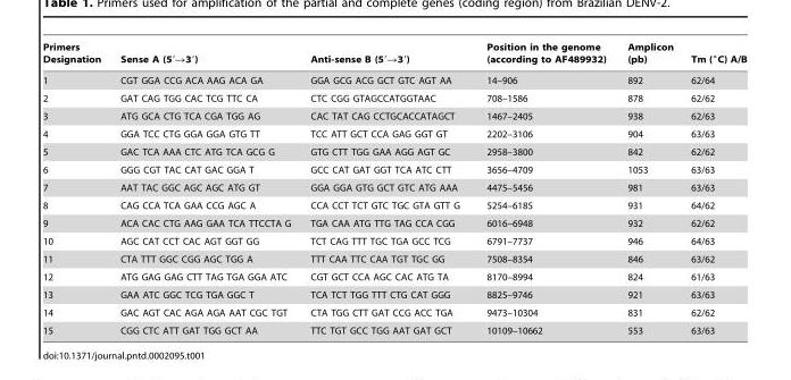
<table><thead><tr><td>Primers Designation</td><td>Sense A (5′→3′)</td><td>Anti-sense B (5′→3′)</td><td>Position in the genome (according to AF489932)</td><td>Amplicon (pb)</td><td>Tm (°C) A/B</td></tr></thead><tbody><tr><td>1</td><td>CGT GGA CCG ACA AAG ACA GA</td><td>GGA GCG ACG GCT GTC AGT AA</td><td>14–906</td><td>892</td><td>62/64</td></tr><tr><td>2</td><td>GAT CAG TGG CAC TCG TTC CA</td><td>CTC CGG GTAGCCATGGTAAC</td><td>708–1586</td><td>878</td><td>62/62</td></tr><tr><td>3</td><td>ATG GCA CTG TCA CGA TGG AG</td><td>CAC TAT CAG CCTGCACCATAGCT</td><td>1467–2405</td><td>938</td><td>62/63</td></tr><tr><td>4</td><td>GGA TCC CTG GGA GGA GTG TT</td><td>TCC ATT GCT CCA GAG GGT GT</td><td>2202–3106</td><td>904</td><td>63/63</td></tr><tr><td>5</td><td>GAC TCA AAA CTC ATG TCA GCG G</td><td>GTG CTT TGG GAA AGG AGT GC</td><td>2958–3800</td><td>842</td><td>62/62</td></tr><tr><td>6</td><td>GGG CGT TAC CAT GAC GGA T</td><td>GCC CAT GAT GGT TCA ATC CTT</td><td>3656–4709</td><td>1053</td><td>63/63</td></tr><tr><td>7</td><td>AAT TAC GGC AGC AGC ATG GT</td><td>GGA GGA GTG GCT GTC ATG AAA</td><td>4475–5456</td><td>981</td><td>63/63</td></tr><tr><td>8</td><td>CAG CCA TCA GAA CCG AGC A</td><td>CCA CCT TCT GTC TGC GTA GTT G</td><td>5254–6185</td><td>931</td><td>64/62</td></tr><tr><td>9</td><td>ACA CAC CTG AAG GAA TCA TTCCTA G</td><td>TGA CAA ATG TTG TAG CCA CGG</td><td>6016–6948</td><td>932</td><td>62/62</td></tr><tr><td>10</td><td>AGC CAT CCT CAC AGT GGT GG</td><td>TCT CAG TTT TGC TGA GCC TCG</td><td>6791–7737</td><td>946</td><td>64/63</td></tr><tr><td>11</td><td>CTA TTT GGC CGG AGC TGG A</td><td>TTT CAA TTC CAA TGT TGC GG</td><td>7508–8354</td><td>846</td><td>63/62</td></tr><tr><td>12</td><td>ATG GAG GAG CTT TAG TGA GGA ATC</td><td>CGT GCT CCA AGC CAC ATG TA</td><td>8170–8994</td><td>824</td><td>61/63</td></tr><tr><td>13</td><td>GAA ATC GGC TCG TGA GGC T</td><td>TCA TCT TGG TTT CTG CAT GGG</td><td>8825–9746</td><td>921</td><td>63/63</td></tr><tr><td>14</td><td>GAC AGT CAC AGA AGA AAT CGC TGT</td><td>CTA TGG CTT GAT CCG ACC TGA</td><td>9473–10304</td><td>831</td><td>62/62</td></tr><tr><td>15</td><td>CGG CTC ATT GAT TGG GCT AA</td><td>TTC TGT GCC TGG AAT GAT GCT</td><td>10109–10662</td><td>553</td><td>63/63</td></tr></tbody></table>